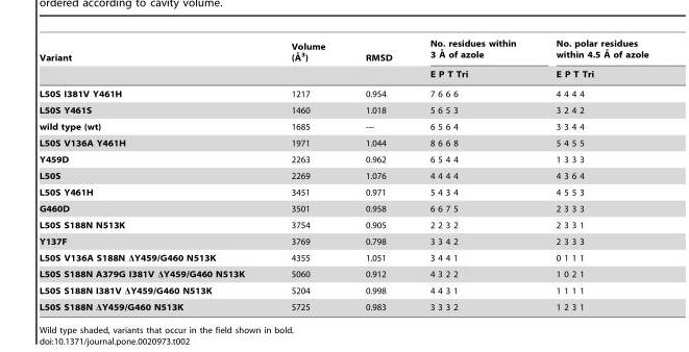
<table><thead><tr><td rowspan="2">Variant</td><td rowspan="2">Volume (A˚ 3)</td><td rowspan="2">RMSD</td><td rowspan="2">No. residues within 3 A˚ of azole E P T Tri</td><td rowspan="2">No. polar residues within 4.5 A˚ of azole E P T Tri</td></tr><tr></tr></thead><tbody><tr><td>L50S I381V Y461H</td><td>1217</td><td>0.954</td><td>7 6 6 6</td><td>4 4 4 4</td></tr><tr><td>L50S Y461S</td><td>1460</td><td>1.018</td><td>5 6 5 3</td><td>3 2 4 2</td></tr><tr><td>wild type (wt)</td><td>1685</td><td>---</td><td>6 5 6 4</td><td>3 3 4 4</td></tr><tr><td>L50S V136A Y461H</td><td>1971</td><td>1.044</td><td>8 6 6 8</td><td>5 4 5 5</td></tr><tr><td>Y459D</td><td>2263</td><td>0.962</td><td>6 5 4 4</td><td>1 3 3 3</td></tr><tr><td>L50S</td><td>2269</td><td>1.076</td><td>4 4 4 4</td><td>4 3 6 4</td></tr><tr><td>L50S Y461H</td><td>3451</td><td>0.971</td><td>5 4 3 4</td><td>4 5 5 3</td></tr><tr><td>G460D</td><td>3501</td><td>0.958</td><td>6 6 7 5</td><td>2 3 3 3</td></tr><tr><td>L50S S188N N513K</td><td>3754</td><td>0.905</td><td>2 2 3 2</td><td>2 3 3 1</td></tr><tr><td>Y137F</td><td>3769</td><td>0.798</td><td>3 3 4 2</td><td>2 3 3 3</td></tr><tr><td>L50S V136A S188N ΔY459/G460 N513K</td><td>4355</td><td>1.051</td><td>3 4 4 1</td><td>0 1 1 1</td></tr><tr><td>L50S S188N A379G I381V ΔY459/G460 N513K</td><td>5060</td><td>0.912</td><td>4 3 2 2</td><td>1 0 2 1</td></tr><tr><td>L50S S188N I381V ΔY459/G460 N513K</td><td>5204</td><td>0.998</td><td>4 4 3 1</td><td>1 1 1 1</td></tr><tr><td>L50S S188N ΔY459/G460 N513K</td><td>5725</td><td>0.983</td><td>3 3 3 2</td><td>1 2 3 1</td></tr></tbody></table>